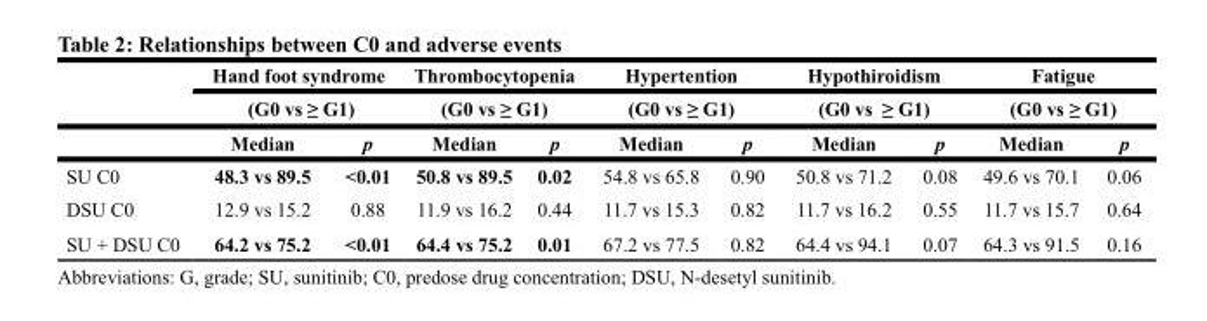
<table><thead><tr><td rowspan="3"></td><td rowspan="2" colspan="2">Hand foot syndrome (G0 vs ≥ G1)</td><td rowspan="2" colspan="2">Thrombocytopenia (G0 vs ≥ G1)</td><td rowspan="2" colspan="2">Hypertention (G0 vs ≥ G1)</td><td rowspan="2" colspan="2">Hypothiroidism (G0 vs ≥ G1)</td><td rowspan="2" colspan="2">Fatigue (G0 vs ≥ G1)</td></tr><tr></tr><tr><td>Median</td><td>p</td><td>Median</td><td>p</td><td>Median</td><td>p</td><td>Median</td><td>p</td><td>Median</td><td>p</td></tr></thead><tbody><tr><td>SU C0</td><td>48.3 vs 89.5</td><td>&lt;0.01</td><td>50.8 vs 89.5</td><td>0.02</td><td>54.8 vs 65.8</td><td>0.90</td><td>50.8 vs 71.2</td><td>0.08</td><td>49.6 vs 70.1</td><td>0.06</td></tr><tr><td>DSU C0</td><td>12.9 vs 15.2</td><td>0.88</td><td>11.9 vs 16.2</td><td>0.44</td><td>11.7 vs 15.3</td><td>0.82</td><td>11.7 vs 16.2</td><td>0.55</td><td>11.7 vs 15.7</td><td>0.64</td></tr><tr><td>SU + DSU C0</td><td>64.2 vs 75.2</td><td>&lt;0.01</td><td>64.4 vs 75.2</td><td>0.01</td><td>67.2 vs 77.5</td><td>0.82</td><td>64.4 vs 94.1</td><td>0.07</td><td>64.3 vs 91.5</td><td>0.16</td></tr></tbody></table>